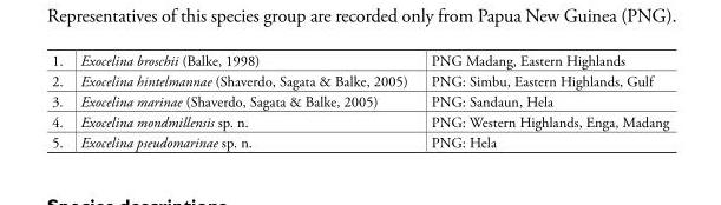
<table><tbody><tr><td>1.</td><td>Exocelina broschii (Balke, 1998)</td><td>PNG Madang, Eastern Highlands</td></tr><tr><td>2.</td><td>Exocelina hintelmannae (Shaverdo, Sagata &amp; Balke, 2005)</td><td>PNG: Simbu, Eastern Highlands, Gulf</td></tr><tr><td>3.</td><td>Exocelina marinae (Shaverdo, Sagata &amp; Balke, 2005)</td><td>PNG: Sandaun, Hela</td></tr><tr><td>4.</td><td>Exocelina mondmillensis sp. n.</td><td>PNG: Western Highlands, Enga, Madang</td></tr><tr><td>5.</td><td>Exocelina pseudomarinae sp. n.</td><td>PNG: Hela</td></tr></tbody></table>